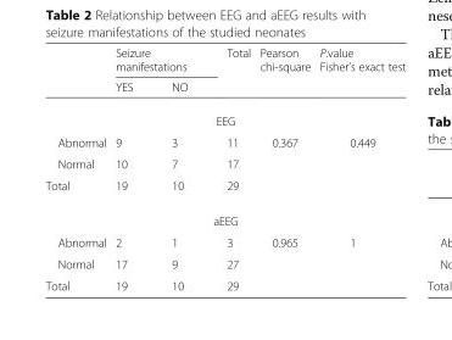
<table><thead><tr><td rowspan="2"></td><td colspan="2">Seizure manifestations</td><td rowspan="2">Total</td><td rowspan="2">Pearson chi-square</td><td rowspan="2">P.value Fisher’s exact test</td></tr><tr><td>YES</td><td>NO</td></tr></thead><tbody><tr><td colspan="6">EEG</td></tr><tr><td>Abnormal</td><td>9</td><td>3</td><td>11</td><td rowspan="3">0.367</td><td rowspan="3">0.449</td></tr><tr><td>Normal</td><td>10</td><td>7</td><td>17</td></tr><tr><td>Total</td><td>19</td><td>10</td><td>29</td></tr><tr><td colspan="6">aEEG</td></tr><tr><td>Abnormal</td><td>2</td><td>1</td><td>3</td><td rowspan="3">0.965</td><td rowspan="3">1</td></tr><tr><td>Normal</td><td>17</td><td>9</td><td>27</td></tr><tr><td>Total</td><td>19</td><td>10</td><td>29</td></tr></tbody></table>